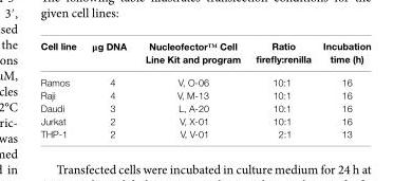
<table><thead><tr><td>cell line</td><td>μg Dna</td><td>nucleofector™ cell line Kit and program</td><td>ratio firefly:renilla</td><td>incubation time (h)</td></tr></thead><tbody><tr><td>Ramos</td><td>4</td><td>V, O-06</td><td>10:1</td><td>16</td></tr><tr><td>Raji</td><td>4</td><td>V, M-13</td><td>10:1</td><td>16</td></tr><tr><td>Daudi</td><td>3</td><td>L, A-20</td><td>10:1</td><td>16</td></tr><tr><td>Jurkat</td><td>2</td><td>V, X-01</td><td>10:1</td><td>16</td></tr><tr><td>THP-1</td><td>2</td><td>V, V-01</td><td>2:1</td><td>13</td></tr></tbody></table>